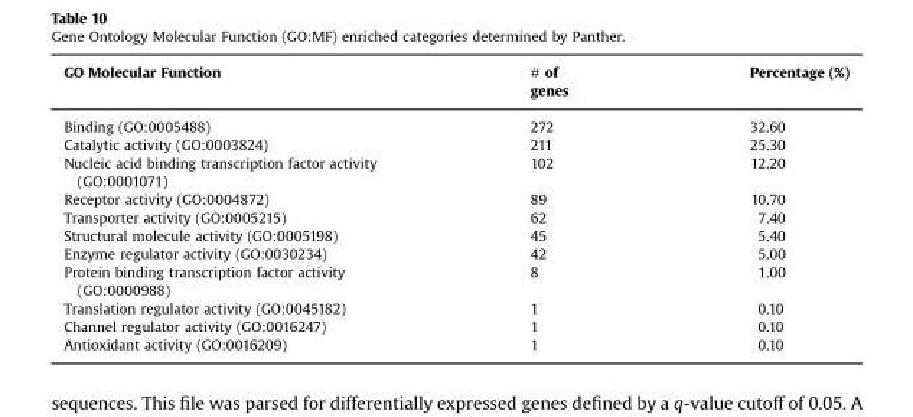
<table><thead><tr><td>GO Molecular Function</td><td># of genes</td><td>Percentage (%)</td></tr></thead><tbody><tr><td>Binding (GO:0005488)</td><td>272</td><td>32.60</td></tr><tr><td>Catalytic activity (GO:0003824)</td><td>211</td><td>25.30</td></tr><tr><td>Nucleic acid binding transcription factor activity (GO:0001071)</td><td>102</td><td>12.20</td></tr><tr><td>Receptor activity (GO:0004872)</td><td>89</td><td>10.70</td></tr><tr><td>Transporter activity (GO:0005215)</td><td>62</td><td>7.40</td></tr><tr><td>Structural molecule activity (GO:0005198)</td><td>45</td><td>5.40</td></tr><tr><td>Enzyme regulator activity (GO:0030234)</td><td>42</td><td>5.00</td></tr><tr><td>Protein binding transcription factor activity (GO:0000988)</td><td>8</td><td>1.00</td></tr><tr><td>Translation regulator activity (GO:0045182)</td><td>1</td><td>0.10</td></tr><tr><td>Channel regulator activity (GO:0016247)</td><td>1</td><td>0.10</td></tr><tr><td>Antioxidant activity (GO:0016209)</td><td>1</td><td>0.10</td></tr></tbody></table>